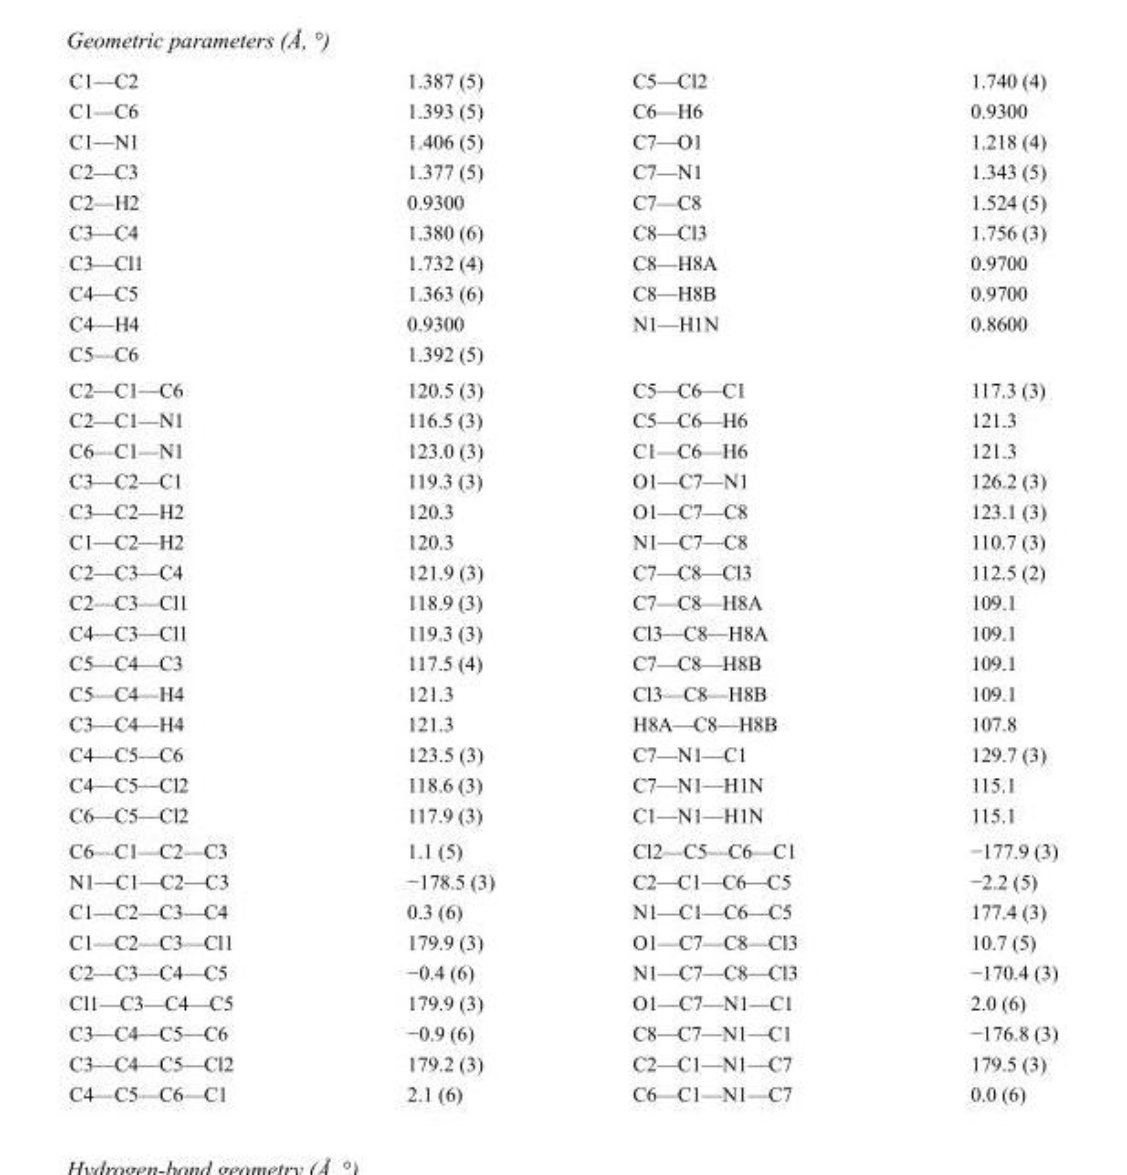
<table><tbody><tr><td>C1—C2</td><td>1.387 (5)</td><td>C5—Cl2</td><td>1.740 (4)</td></tr><tr><td>C1—C6</td><td>1.393 (5)</td><td>C6—H6</td><td>0.9300</td></tr><tr><td>C1—N1</td><td>1.406 (5)</td><td>C7—O1</td><td>1.218 (4)</td></tr><tr><td>C2—C3</td><td>1.377 (5)</td><td>C7—N1</td><td>1.343 (5)</td></tr><tr><td>C2—H2</td><td>0.9300</td><td>C7—C8</td><td>1.524 (5)</td></tr><tr><td>C3—C4</td><td>1.380 (6)</td><td>C8—Cl3</td><td>1.756 (3)</td></tr><tr><td>C3—Cl1</td><td>1.732 (4)</td><td>C8—H8A</td><td>0.9700</td></tr><tr><td>C4—C5</td><td>1.363 (6)</td><td>C8—H8B</td><td>0.9700</td></tr><tr><td>C4—H4</td><td>0.9300</td><td>N1—H1N</td><td>0.8600</td></tr><tr><td>C5—C6</td><td>1.392 (5)</td><td></td><td></td></tr><tr><td>C2—C1—C6</td><td>120.5 (3)</td><td>C5—C6—C1</td><td>117.3 (3)</td></tr><tr><td>C2—C1—N1</td><td>116.5 (3)</td><td>C5—C6—H6</td><td>121.3</td></tr><tr><td>C6—C1—N1</td><td>123.0 (3)</td><td>C1—C6—H6</td><td>121.3</td></tr><tr><td>C3—C2—C1</td><td>119.3 (3)</td><td>O1—C7—N1</td><td>126.2 (3)</td></tr><tr><td>C3—C2—H2</td><td>120.3</td><td>O1—C7—C8</td><td>123.1 (3)</td></tr><tr><td>C1—C2—H2</td><td>120.3</td><td>N1—C7—C8</td><td>110.7 (3)</td></tr><tr><td>C2—C3—C4</td><td>121.9 (3)</td><td>C7—C8—Cl3</td><td>112.5 (2)</td></tr><tr><td>C2—C3—Cl1</td><td>118.9 (3)</td><td>C7—C8—H8A</td><td>109.1</td></tr><tr><td>C4—C3—Cl1</td><td>119.3 (3)</td><td>Cl3—C8—H8A</td><td>109.1</td></tr><tr><td>C5—C4—C3</td><td>117.5 (4)</td><td>C7—C8—H8B</td><td>109.1</td></tr><tr><td>C5—C4—H4</td><td>121.3</td><td>Cl3—C8—H8B</td><td>109.1</td></tr><tr><td>C3—C4—H4</td><td>121.3</td><td>H8A—C8—H8B</td><td>107.8</td></tr><tr><td>C4—C5—C6</td><td>123.5 (3)</td><td>C7—N1—C1</td><td>129.7 (3)</td></tr><tr><td>C4—C5—Cl2</td><td>118.6 (3)</td><td>C7—N1—H1N</td><td>115.1</td></tr><tr><td>C6—C5—Cl2</td><td>117.9 (3)</td><td>C1—N1—H1N</td><td>115.1</td></tr><tr><td>C6—C1—C2—C3</td><td>1.1 (5)</td><td>Cl2—C5—C6—C1</td><td>−177.9 (3)</td></tr><tr><td>N1—C1—C2—C3</td><td>−178.5 (3)</td><td>C2—C1—C6—C5</td><td>−2.2 (5)</td></tr><tr><td>C1—C2—C3—C4</td><td>0.3 (6)</td><td>N1—C1—C6—C5</td><td>177.4 (3)</td></tr><tr><td>C1—C2—C3—Cl1</td><td>179.9 (3)</td><td>O1—C7—C8—Cl3</td><td>10.7 (5)</td></tr><tr><td>C2—C3—C4—C5</td><td>−0.4 (6)</td><td>N1—C7—C8—Cl3</td><td>−170.4 (3)</td></tr><tr><td>Cl1—C3—C4—C5</td><td>179.9 (3)</td><td>O1—C7—N1—C1</td><td>2.0 (6)</td></tr><tr><td>C3—C4—C5—C6</td><td>−0.9 (6)</td><td>C8—C7—N1—C1</td><td>−176.8 (3)</td></tr><tr><td>C3—C4—C5—Cl2</td><td>179.2 (3)</td><td>C2—C1—N1—C7</td><td>179.5 (3)</td></tr><tr><td>C4—C5—C6—C1</td><td>2.1 (6)</td><td>C6—C1—N1—C7</td><td>0.0 (6)</td></tr></tbody></table>